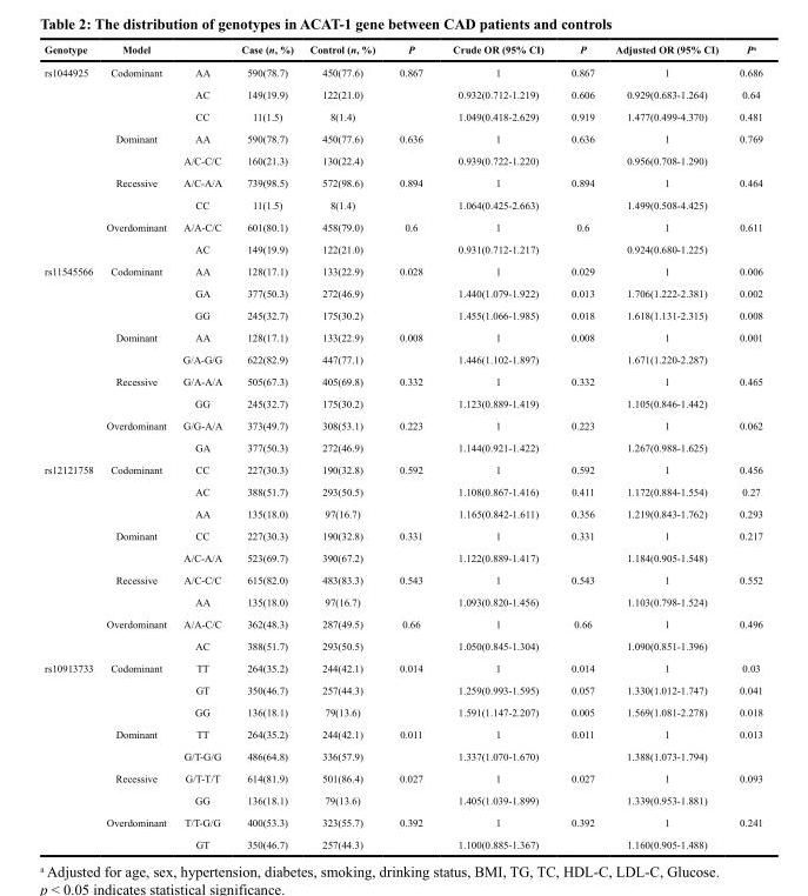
<table><thead><tr><td>Genotype</td><td>Model</td><td></td><td>Case (n, %)</td><td>Control (n, %)</td><td>P</td><td>Crude OR (95% CI)</td><td>P</td><td>Adjusted OR (95% CI)</td><td>P<sup>a</sup></td></tr></thead><tbody><tr><td rowspan="9">rs1044925</td><td>Codominant</td><td>AA</td><td>590(78.7)</td><td>450(77.6)</td><td>0.867</td><td>1</td><td>0.867</td><td>1</td><td>0.686</td></tr><tr><td></td><td>AC</td><td>149(19.9)</td><td>122(21.0)</td><td></td><td>0.932(0.712-1.219)</td><td>0.606</td><td>0.929(0.683-1.264)</td><td>0.64</td></tr><tr><td></td><td>CC</td><td>11(1.5)</td><td>8(1.4)</td><td></td><td>1.049(0.418-2.629)</td><td>0.919</td><td>1.477(0.499-4.370)</td><td>0.481</td></tr><tr><td>Dominant</td><td>AA</td><td>590(78.7)</td><td>450(77.6)</td><td>0.636</td><td>1</td><td>0.636</td><td>1</td><td>0.769</td></tr><tr><td></td><td>A/C-C/C</td><td>160(21.3)</td><td>130(22.4)</td><td></td><td>0.939(0.722-1.220)</td><td></td><td>0.956(0.708-1.290)</td><td></td></tr><tr><td>Recessive</td><td>A/C-A/A</td><td>739(98.5)</td><td>572(98.6)</td><td>0.894</td><td>1</td><td>0.894</td><td>1</td><td>0.464</td></tr><tr><td></td><td>CC</td><td>11(1.5)</td><td>8(1.4)</td><td></td><td>1.064(0.425-2.663)</td><td></td><td>1.499(0.508-4.425)</td><td></td></tr><tr><td>Overdominant</td><td>A/A-C/C</td><td>601(80.1)</td><td>458(79.0)</td><td>0.6</td><td>1</td><td>0.6</td><td>1</td><td>0.611</td></tr><tr><td></td><td>AC</td><td>149(19.9)</td><td>122(21.0)</td><td></td><td>0.931(0.712-1.217)</td><td></td><td>0.924(0.680-1.225)</td><td></td></tr><tr><td rowspan="9">rs11545566</td><td>Codominant</td><td>AA</td><td>128(17.1)</td><td>133(22.9)</td><td>0.028</td><td>1</td><td>0.029</td><td>1</td><td>0.006</td></tr><tr><td></td><td>GA</td><td>377(50.3)</td><td>272(46.9)</td><td></td><td>1.440(1.079-1.922)</td><td>0.013</td><td>1.706(1.222-2.381)</td><td>0.002</td></tr><tr><td></td><td>GG</td><td>245(32.7)</td><td>175(30.2)</td><td></td><td>1.455(1.066-1.985)</td><td>0.018</td><td>1.618(1.131-2.315)</td><td>0.008</td></tr><tr><td>Dominant</td><td>AA</td><td>128(17.1)</td><td>133(22.9)</td><td>0.008</td><td>1</td><td>0.008</td><td>1</td><td>0.001</td></tr><tr><td></td><td>G/A-G/G</td><td>622(82.9)</td><td>447(77.1)</td><td></td><td>1.446(1.102-1.897)</td><td></td><td>1.671(1.220-2.287)</td><td></td></tr><tr><td>Recessive</td><td>G/A-A/A</td><td>505(67.3)</td><td>405(69.8)</td><td>0.332</td><td>1</td><td>0.332</td><td>1</td><td>0.465</td></tr><tr><td></td><td>GG</td><td>245(32.7)</td><td>175(30.2)</td><td></td><td>1.123(0.889-1.419)</td><td></td><td>1.105(0.846-1.442)</td><td></td></tr><tr><td>Overdominant</td><td>G/G-A/A</td><td>373(49.7)</td><td>308(53.1)</td><td>0.223</td><td>1</td><td>0.223</td><td>1</td><td>0.062</td></tr><tr><td></td><td>GA</td><td>377(50.3)</td><td>272(46.9)</td><td></td><td>1.144(0.921-1.422)</td><td></td><td>1.267(0.988-1.625)</td><td></td></tr><tr><td rowspan="9">rs12121758</td><td>Codominant</td><td>CC</td><td>227(30.3)</td><td>190(32.8)</td><td>0.592</td><td>1</td><td>0.592</td><td>1</td><td>0.456</td></tr><tr><td></td><td>AC</td><td>388(51.7)</td><td>293(50.5)</td><td></td><td>1.108(0.867-1.416)</td><td>0.411</td><td>1.172(0.884-1.554)</td><td>0.27</td></tr><tr><td></td><td>AA</td><td>135(18.0)</td><td>97(16.7)</td><td></td><td>1.165(0.842-1.611)</td><td>0.356</td><td>1.219(0.843-1.762)</td><td>0.293</td></tr><tr><td>Dominant</td><td>CC</td><td>227(30.3)</td><td>190(32.8)</td><td>0.331</td><td>1</td><td>0.331</td><td>1</td><td>0.217</td></tr><tr><td></td><td>A/C-A/A</td><td>523(69.7)</td><td>390(67.2)</td><td></td><td>1.122(0.889-1.417)</td><td></td><td>1.184(0.905-1.548)</td><td></td></tr><tr><td>Recessive</td><td>A/C-C/C</td><td>615(82.0)</td><td>483(83.3)</td><td>0.543</td><td>1</td><td>0.543</td><td>1</td><td>0.552</td></tr><tr><td></td><td>AA</td><td>135(18.0)</td><td>97(16.7)</td><td></td><td>1.093(0.820-1.456)</td><td></td><td>1.103(0.798-1.524)</td><td></td></tr><tr><td>Overdominant</td><td>A/A-C/C</td><td>362(48.3)</td><td>287(49.5)</td><td>0.66</td><td>1</td><td>0.66</td><td>1</td><td>0.496</td></tr><tr><td></td><td>AC</td><td>388(51.7)</td><td>293(50.5)</td><td></td><td>1.050(0.845-1.304)</td><td></td><td>1.090(0.851-1.396)</td><td></td></tr><tr><td rowspan="9">rs10913733</td><td>Codominant</td><td>TT</td><td>264(35.2)</td><td>244(42.1)</td><td>0.014</td><td>1</td><td>0.014</td><td>1</td><td>0.03</td></tr><tr><td></td><td>GT</td><td>350(46.7)</td><td>257(44.3)</td><td></td><td>1.259(0.993-1.595)</td><td>0.057</td><td>1.330(1.012-1.747)</td><td>0.041</td></tr><tr><td></td><td>GG</td><td>136(18.1)</td><td>79(13.6)</td><td></td><td>1.591(1.147-2.207)</td><td>0.005</td><td>1.569(1.081-2.278)</td><td>0.018</td></tr><tr><td>Dominant</td><td>TT</td><td>264(35.2)</td><td>244(42.1)</td><td>0.011</td><td>1</td><td>0.011</td><td>1</td><td>0.013</td></tr><tr><td></td><td>G/T-G/G</td><td>486(64.8)</td><td>336(57.9)</td><td></td><td>1.337(1.070-1.670)</td><td></td><td>1.388(1.073-1.794)</td><td></td></tr><tr><td>Recessive</td><td>G/T-T/T</td><td>614(81.9)</td><td>501(86.4)</td><td>0.027</td><td>1</td><td>0.027</td><td>1</td><td>0.093</td></tr><tr><td></td><td>GG</td><td>136(18.1)</td><td>79(13.6)</td><td></td><td>1.405(1.039-1.899)</td><td></td><td>1.339(0.953-1.881)</td><td></td></tr><tr><td>Overdominant</td><td>T/T-G/G</td><td>400(53.3)</td><td>323(55.7)</td><td>0.392</td><td>1</td><td>0.392</td><td>1</td><td>0.241</td></tr><tr><td></td><td>GT</td><td>350(46.7)</td><td>257(44.3)</td><td></td><td>1.100(0.885-1.367)</td><td></td><td>1.160(0.905-1.488)</td><td></td></tr></tbody></table>